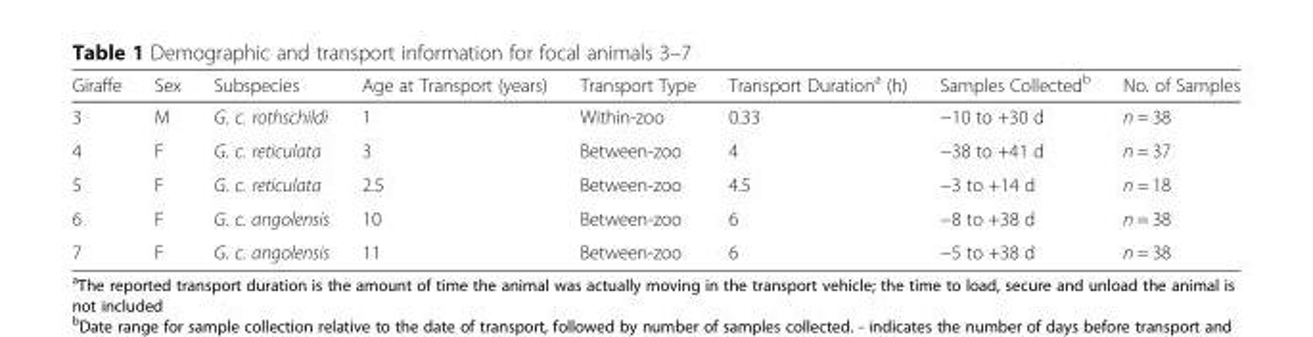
<table><thead><tr><td>Giraffe</td><td>Sex</td><td>Subspecies</td><td>Age at Transport (years)</td><td>Transport Type</td><td>Transport Duration<sup>a</sup> (h)</td><td>Samples Collected<sup>b</sup></td><td>No. of Samples</td></tr></thead><tbody><tr><td>3</td><td>M</td><td>G. c. rothschildi</td><td>1</td><td>Within-zoo</td><td>0.33</td><td>−10 to +30 d</td><td>n = 38</td></tr><tr><td>4</td><td>F</td><td>G. c. reticulata</td><td>3</td><td>Between-zoo</td><td>4</td><td>−38 to +41 d</td><td>n = 37</td></tr><tr><td>5</td><td>F</td><td>G. c. reticulata</td><td>2.5</td><td>Between-zoo</td><td>4.5</td><td>−3 to +14 d</td><td>n = 18</td></tr><tr><td>6</td><td>F</td><td>G. c. angolensis</td><td>10</td><td>Between-zoo</td><td>6</td><td>−8 to +38 d</td><td>n = 38</td></tr><tr><td>7</td><td>F</td><td>G. c. angolensis</td><td>11</td><td>Between-zoo</td><td>6</td><td>−5 to +38 d</td><td>n = 38</td></tr></tbody></table>